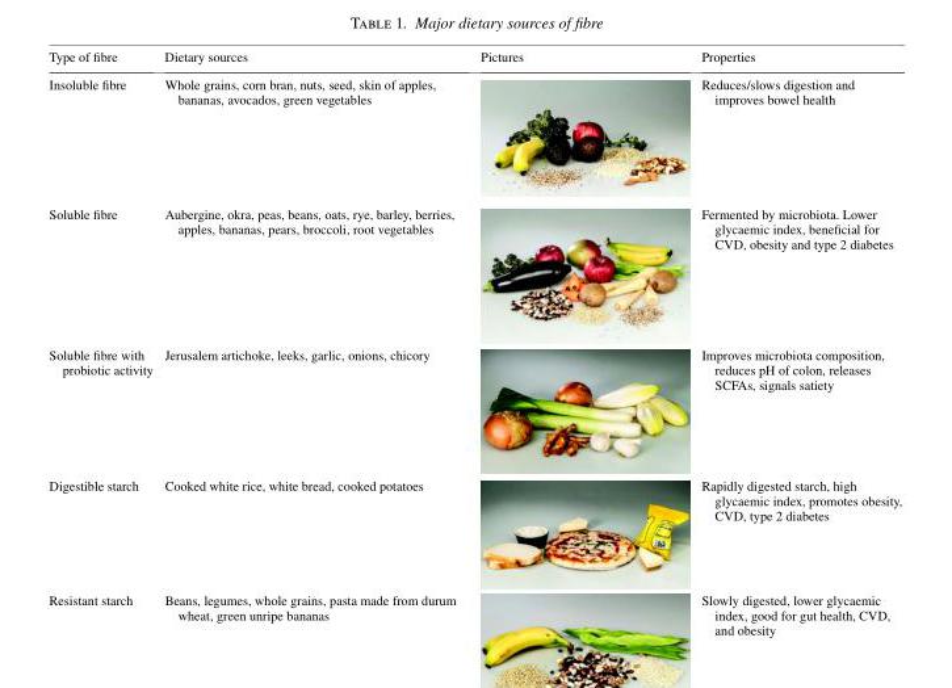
<table><thead><tr><td>Type of fibre</td><td>Dietary sources</td><td>Pictures</td><td>Properties</td></tr></thead><tbody><tr><td>Insoluble fibre</td><td>Whole grains, corn bran, nuts, seed, skin of apples, bananas, avocados, green vegetables</td><td></td><td>Reduces/slows digestion and improves bowel health</td></tr><tr><td>Soluble fibre</td><td>Aubergine, okra, peas, beans, oats, rye, barley, berries, apples, bananas, pears, broccoli, root vegetables</td><td></td><td>Fermented by microbiota. Lower glycaemic index, beneficial for CVD, obesity and type 2 diabetes</td></tr><tr><td>Soluble fibre with probiotic activity</td><td>Jerusalem artichoke, leeks, garlic, onions, chicory</td><td></td><td>Improves microbiota composition, reduces pH of colon, releases SCFAs, signals satiety</td></tr><tr><td>Digestible starch</td><td>Cooked white rice, white bread, cooked potatoes</td><td></td><td>Rapidly digested starch, high glycaemic index, promotes obesity, CVD, type 2 diabetes</td></tr><tr><td>Resistant starch</td><td>Beans, legumes, whole grains, pasta made from durum wheat, green unripe bananas</td><td></td><td>Slowly digested, lower glycaemic index, good for gut health, CVD, and obesity</td></tr></tbody></table>